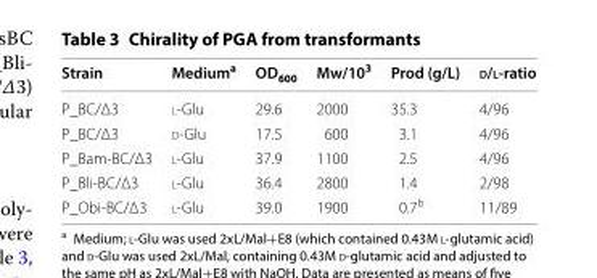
<table><thead><tr><td>Strain</td><td>Medium<sup>a</sup></td><td>OD<sub>600</sub></td><td>Mw/10<sup>3</sup></td><td>Prod (g/L)</td><td>d/l‑ratio</td></tr></thead><tbody><tr><td>P_BC/Δ3</td><td>l-Glu</td><td>29.6</td><td>2000</td><td>35.3</td><td>4/96</td></tr><tr><td>P_BC/Δ3</td><td>d-Glu</td><td>17.5</td><td>600</td><td>3.1</td><td>4/96</td></tr><tr><td>P_Bam-BC/Δ3</td><td>l-Glu</td><td>37.9</td><td>1100</td><td>2.5</td><td>4/96</td></tr><tr><td>P_Bli-BC/Δ3</td><td>l-Glu</td><td>36.4</td><td>2800</td><td>1.4</td><td>2/98</td></tr><tr><td>P_Obi-BC/Δ3</td><td>l-Glu</td><td>39.0</td><td>1900</td><td>0.7<sup>b</sup></td><td>11/89</td></tr></tbody></table>